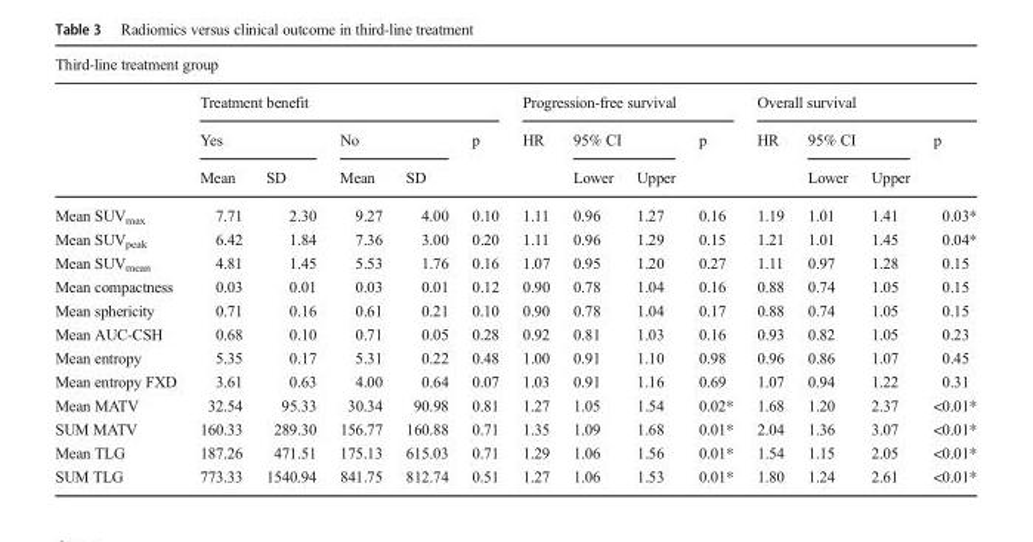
<table><thead><tr><td colspan="14">Third-line treatment group</td></tr><tr><td rowspan="3"></td><td colspan="5">Treatment benefit</td><td colspan="4">Progression-free survival</td><td colspan="4">Overall survival</td></tr><tr><td colspan="2">Yes</td><td colspan="2">No</td><td rowspan="2">p</td><td rowspan="2">HR</td><td colspan="2">95% CI</td><td rowspan="2">p</td><td rowspan="2">HR</td><td colspan="2">95% CI</td><td rowspan="2">p</td></tr><tr><td>Mean</td><td>SD</td><td>Mean</td><td>SD</td><td>Lower</td><td>Upper</td><td>Lower</td><td>Upper</td></tr></thead><tbody><tr><td>Mean SUV<sub>max</sub></td><td>7.71</td><td>2.30</td><td>9.27</td><td>4.00</td><td>0.10</td><td>1.11</td><td>0.96</td><td>1.27</td><td>0.16</td><td>1.19</td><td>1.01</td><td>1.41</td><td>0.03*</td></tr><tr><td>Mean SUV<sub>peak</sub></td><td>6.42</td><td>1.84</td><td>7.36</td><td>3.00</td><td>0.20</td><td>1.11</td><td>0.96</td><td>1.29</td><td>0.15</td><td>1.21</td><td>1.01</td><td>1.45</td><td>0.04*</td></tr><tr><td>Mean SUV<sub>mean</sub></td><td>4.81</td><td>1.45</td><td>5.53</td><td>1.76</td><td>0.16</td><td>1.07</td><td>0.95</td><td>1.20</td><td>0.27</td><td>1.11</td><td>0.97</td><td>1.28</td><td>0.15</td></tr><tr><td>Mean compactness</td><td>0.03</td><td>0.01</td><td>0.03</td><td>0.01</td><td>0.12</td><td>0.90</td><td>0.78</td><td>1.04</td><td>0.16</td><td>0.88</td><td>0.74</td><td>1.05</td><td>0.15</td></tr><tr><td>Mean sphericity</td><td>0.71</td><td>0.16</td><td>0.61</td><td>0.21</td><td>0.10</td><td>0.90</td><td>0.78</td><td>1.04</td><td>0.17</td><td>0.88</td><td>0.74</td><td>1.05</td><td>0.15</td></tr><tr><td>Mean AUC-CSH</td><td>0.68</td><td>0.10</td><td>0.71</td><td>0.05</td><td>0.28</td><td>0.92</td><td>0.81</td><td>1.03</td><td>0.16</td><td>0.93</td><td>0.82</td><td>1.05</td><td>0.23</td></tr><tr><td>Mean entropy</td><td>5.35</td><td>0.17</td><td>5.31</td><td>0.22</td><td>0.48</td><td>1.00</td><td>0.91</td><td>1.10</td><td>0.98</td><td>0.96</td><td>0.86</td><td>1.07</td><td>0.45</td></tr><tr><td>Mean entropy FXD</td><td>3.61</td><td>0.63</td><td>4.00</td><td>0.64</td><td>0.07</td><td>1.03</td><td>0.91</td><td>1.16</td><td>0.69</td><td>1.07</td><td>0.94</td><td>1.22</td><td>0.31</td></tr><tr><td>Mean MATV</td><td>32.54</td><td>95.33</td><td>30.34</td><td>90.98</td><td>0.81</td><td>1.27</td><td>1.05</td><td>1.54</td><td>0.02*</td><td>1.68</td><td>1.20</td><td>2.37</td><td>&lt;0.01*</td></tr><tr><td>SUM MATV</td><td>160.33</td><td>289.30</td><td>156.77</td><td>160.88</td><td>0.71</td><td>1.35</td><td>1.09</td><td>1.68</td><td>0.01*</td><td>2.04</td><td>1.36</td><td>3.07</td><td>&lt;0.01*</td></tr><tr><td>Mean TLG</td><td>187.26</td><td>471.51</td><td>175.13</td><td>615.03</td><td>0.71</td><td>1.29</td><td>1.06</td><td>1.56</td><td>0.01*</td><td>1.54</td><td>1.15</td><td>2.05</td><td>&lt;0.01*</td></tr><tr><td>SUM TLG</td><td>773.33</td><td>1540.94</td><td>841.75</td><td>812.74</td><td>0.51</td><td>1.27</td><td>1.06</td><td>1.53</td><td>0.01*</td><td>1.80</td><td>1.24</td><td>2.61</td><td>&lt;0.01*</td></tr></tbody></table>